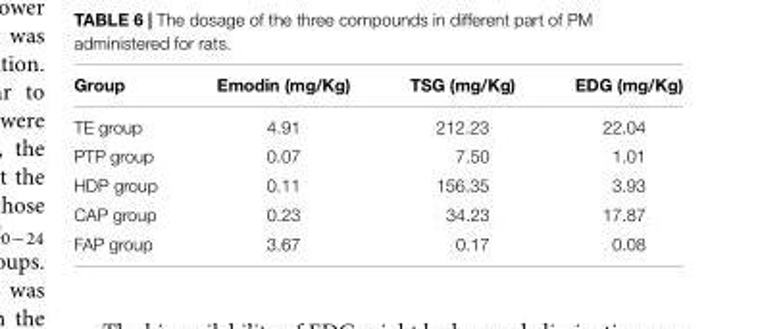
<table><thead><tr><td>Group</td><td>Emodin (mg/Kg)</td><td>TSG (mg/Kg)</td><td>EDG (mg/Kg)</td></tr></thead><tbody><tr><td>TE group</td><td>4.91</td><td>212.23</td><td>22.04</td></tr><tr><td>PTP group</td><td>0.07</td><td>7.50</td><td>1.01</td></tr><tr><td>HDP group</td><td>0.11</td><td>156.35</td><td>3.93</td></tr><tr><td>CAP group</td><td>0.23</td><td>34.23</td><td>17.87</td></tr><tr><td>FAP group</td><td>3.67</td><td>0.17</td><td>0.08</td></tr></tbody></table>